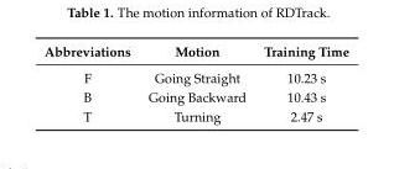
<table><thead><tr><td>Abbreviations</td><td>Motion</td><td>Training Time</td></tr></thead><tbody><tr><td>F</td><td>Going Straight</td><td>10.23 s</td></tr><tr><td>B</td><td>Going Backward</td><td>10.43 s</td></tr><tr><td>T</td><td>Turning</td><td>2.47 s</td></tr></tbody></table>